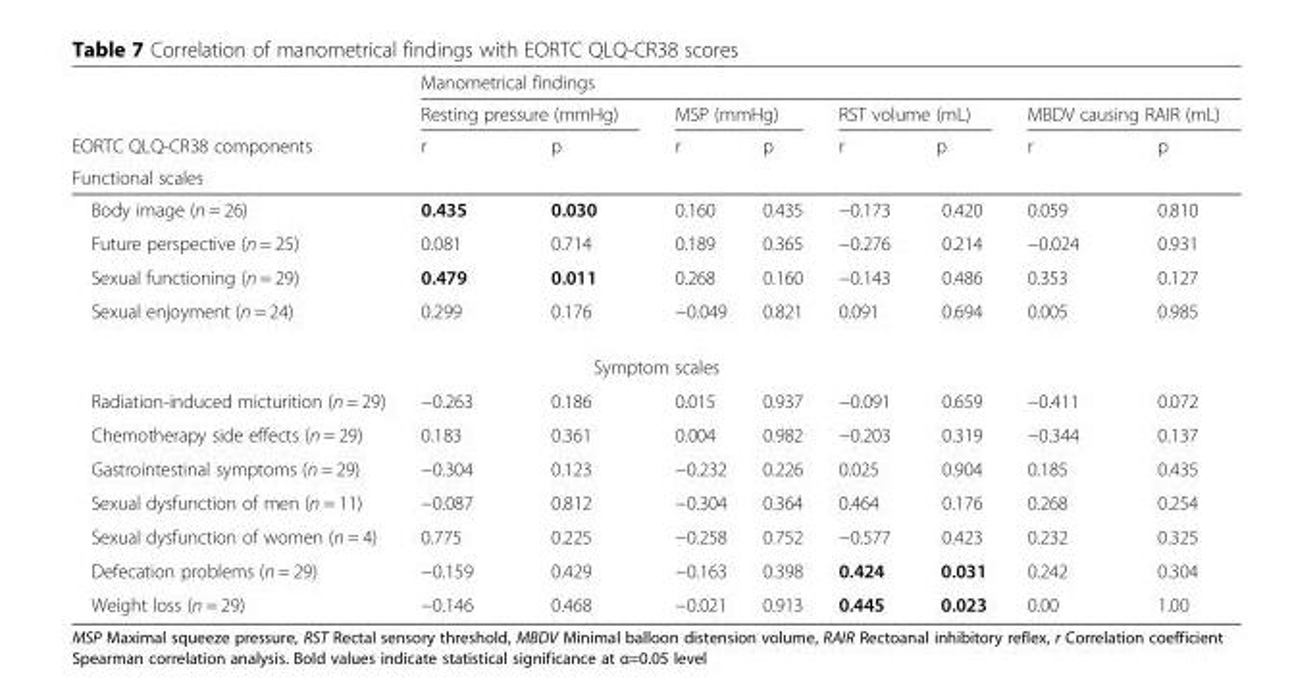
<table><thead><tr><td rowspan="4">EORTC QLQ-CR38 components Functional scales</td><td colspan="8">Manometrical findings</td></tr><tr><td colspan="2">Resting pressure (mmHg)</td><td colspan="2">MSP (mmHg)</td><td colspan="2">RST volume (mL)</td><td colspan="2">MBDV causing RAIR (mL)</td></tr><tr><td rowspan="2">r</td><td rowspan="2">p</td><td rowspan="2">r</td><td rowspan="2">p</td><td rowspan="2">r</td><td rowspan="2">p</td><td rowspan="2">r</td><td rowspan="2">p</td></tr><tr></tr></thead><tbody><tr><td>Body image (n = 26)</td><td>0.435</td><td>0.030</td><td>0.160</td><td>0.435</td><td>−0.173</td><td>0.420</td><td>0.059</td><td>0.810</td></tr><tr><td>Future perspective (n = 25)</td><td>0.081</td><td>0.714</td><td>0.189</td><td>0.365</td><td>−0.276</td><td>0.214</td><td>−0.024</td><td>0.931</td></tr><tr><td>Sexual functioning (n = 29)</td><td>0.479</td><td>0.011</td><td>0.268</td><td>0.160</td><td>−0.143</td><td>0.486</td><td>0.353</td><td>0.127</td></tr><tr><td>Sexual enjoyment (n = 24)</td><td>0.299</td><td>0.176</td><td>−0.049</td><td>0.821</td><td>0.091</td><td>0.694</td><td>0.005</td><td>0.985</td></tr><tr><td colspan="9">Symptom scales</td></tr><tr><td>Radiation-induced micturition (n = 29)</td><td>−0.263</td><td>0.186</td><td>0.015</td><td>0.937</td><td>−0.091</td><td>0.659</td><td>−0.411</td><td>0.072</td></tr><tr><td>Chemotherapy side effects (n = 29)</td><td>0.183</td><td>0.361</td><td>0.004</td><td>0.982</td><td>−0.203</td><td>0.319</td><td>−0.344</td><td>0.137</td></tr><tr><td>Gastrointestinal symptoms (n = 29)</td><td>−0.304</td><td>0.123</td><td>−0.232</td><td>0.226</td><td>0.025</td><td>0.904</td><td>0.185</td><td>0.435</td></tr><tr><td>Sexual dysfunction of men (n = 11)</td><td>−0.087</td><td>0.812</td><td>−0.304</td><td>0.364</td><td>0.464</td><td>0.176</td><td>0.268</td><td>0.254</td></tr><tr><td>Sexual dysfunction of women (n = 4)</td><td>0.775</td><td>0.225</td><td>−0.258</td><td>0.752</td><td>−0.577</td><td>0.423</td><td>0.232</td><td>0.325</td></tr><tr><td>Defecation problems (n = 29)</td><td>−0.159</td><td>0.429</td><td>−0.163</td><td>0.398</td><td>0.424</td><td>0.031</td><td>0.242</td><td>0.304</td></tr><tr><td>Weight loss (n = 29)</td><td>−0.146</td><td>0.468</td><td>−0.021</td><td>0.913</td><td>0.445</td><td>0.023</td><td>0.00</td><td>1.00</td></tr></tbody></table>